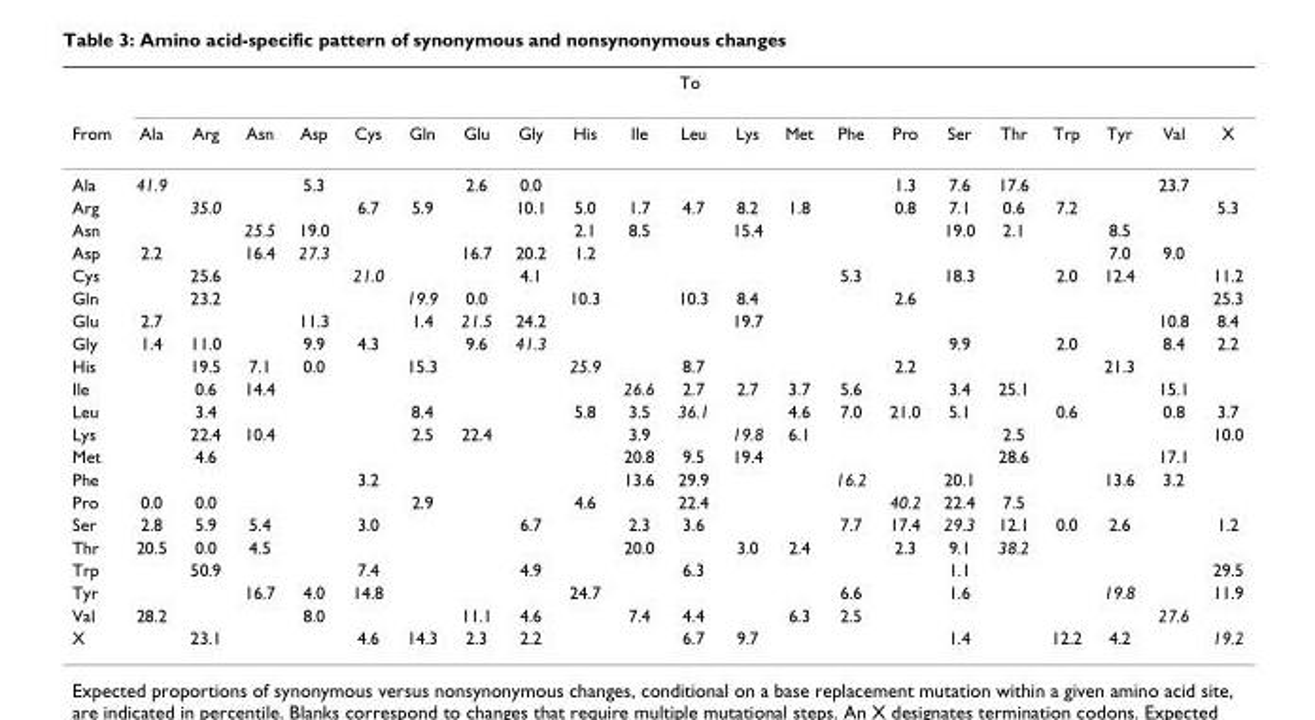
<table><thead><tr><td rowspan="2">From</td><td colspan="21">To</td></tr><tr><td>Ala</td><td>Arg</td><td>Asn</td><td>Asp</td><td>Cys</td><td>Gln</td><td>Glu</td><td>Gly</td><td>His</td><td>Ile</td><td>Leu</td><td>Lys</td><td>Met</td><td>Phe</td><td>Pro</td><td>Ser</td><td>Thr</td><td>Trp</td><td>Tyr</td><td>Val</td><td>X</td></tr></thead><tbody><tr><td>Ala</td><td>41.9</td><td></td><td></td><td>5.3</td><td></td><td></td><td>2.6</td><td>0.0</td><td></td><td></td><td></td><td></td><td></td><td></td><td>1.3</td><td>7.6</td><td>17.6</td><td></td><td></td><td>23.7</td><td></td></tr><tr><td>Arg</td><td></td><td>35.0</td><td></td><td></td><td>6.7</td><td>5.9</td><td></td><td>10.1</td><td>5.0</td><td>1.7</td><td>4.7</td><td>8.2</td><td>1.8</td><td></td><td>0.8</td><td>7.1</td><td>0.6</td><td>7.2</td><td></td><td></td><td>5.3</td></tr><tr><td>Asn</td><td></td><td></td><td>25.5</td><td>19.0</td><td></td><td></td><td></td><td></td><td>2.1</td><td>8.5</td><td></td><td>15.4</td><td></td><td></td><td></td><td>19.0</td><td>2.1</td><td></td><td>8.5</td><td></td><td></td></tr><tr><td>Asp</td><td>2.2</td><td></td><td>16.4</td><td>27.3</td><td></td><td></td><td>16.7</td><td>20.2</td><td>1.2</td><td></td><td></td><td></td><td></td><td></td><td></td><td></td><td></td><td></td><td>7.0</td><td>9.0</td><td></td></tr><tr><td>Cys</td><td></td><td>25.6</td><td></td><td></td><td>21.0</td><td></td><td></td><td>4.1</td><td></td><td></td><td></td><td></td><td></td><td>5.3</td><td></td><td>18.3</td><td></td><td>2.0</td><td>12.4</td><td></td><td>11.2</td></tr><tr><td>Gln</td><td></td><td>23.2</td><td></td><td></td><td></td><td>19.9</td><td>0.0</td><td></td><td>10.3</td><td></td><td>10.3</td><td>8.4</td><td></td><td></td><td>2.6</td><td></td><td></td><td></td><td></td><td></td><td>25.3</td></tr><tr><td>Glu</td><td>2.7</td><td></td><td></td><td>11.3</td><td></td><td>1.4</td><td>21.5</td><td>24.2</td><td></td><td></td><td></td><td>19.7</td><td></td><td></td><td></td><td></td><td></td><td></td><td></td><td>10.8</td><td>8.4</td></tr><tr><td>Gly</td><td>1.4</td><td>11.0</td><td></td><td>9.9</td><td>4.3</td><td></td><td>9.6</td><td>41.3</td><td></td><td></td><td></td><td></td><td></td><td></td><td></td><td>9.9</td><td></td><td>2.0</td><td></td><td>8.4</td><td>2.2</td></tr><tr><td>His</td><td></td><td>19.5</td><td>7.1</td><td>0.0</td><td></td><td>15.3</td><td></td><td></td><td>25.9</td><td></td><td>8.7</td><td></td><td></td><td></td><td>2.2</td><td></td><td></td><td></td><td>21.3</td><td></td><td></td></tr><tr><td>Ile</td><td></td><td>0.6</td><td>14.4</td><td></td><td></td><td></td><td></td><td></td><td></td><td>26.6</td><td>2.7</td><td>2.7</td><td>3.7</td><td>5.6</td><td></td><td>3.4</td><td>25.1</td><td></td><td></td><td>15.1</td><td></td></tr><tr><td>Leu</td><td></td><td>3.4</td><td></td><td></td><td></td><td>8.4</td><td></td><td></td><td>5.8</td><td>3.5</td><td>36.1</td><td></td><td>4.6</td><td>7.0</td><td>21.0</td><td>5.1</td><td></td><td>0.6</td><td></td><td>0.8</td><td>3.7</td></tr><tr><td>Lys</td><td></td><td>22.4</td><td>10.4</td><td></td><td></td><td>2.5</td><td>22.4</td><td></td><td></td><td>3.9</td><td></td><td>19.8</td><td>6.1</td><td></td><td></td><td></td><td>2.5</td><td></td><td></td><td></td><td>10.0</td></tr><tr><td>Met</td><td></td><td>4.6</td><td></td><td></td><td></td><td></td><td></td><td></td><td></td><td>20.8</td><td>9.5</td><td>19.4</td><td></td><td></td><td></td><td></td><td>28.6</td><td></td><td></td><td>17.1</td><td></td></tr><tr><td>Phe</td><td></td><td></td><td></td><td></td><td>3.2</td><td></td><td></td><td></td><td></td><td>13.6</td><td>29.9</td><td></td><td></td><td>16.2</td><td></td><td>20.1</td><td></td><td></td><td>13.6</td><td>3.2</td><td></td></tr><tr><td>Pro</td><td>0.0</td><td>0.0</td><td></td><td></td><td></td><td>2.9</td><td></td><td></td><td>4.6</td><td></td><td>22.4</td><td></td><td></td><td></td><td>40.2</td><td>22.4</td><td>7.5</td><td></td><td></td><td></td><td></td></tr><tr><td>Ser</td><td>2.8</td><td>5.9</td><td>5.4</td><td></td><td>3.0</td><td></td><td></td><td>6.7</td><td></td><td>2.3</td><td>3.6</td><td></td><td></td><td>7.7</td><td>17.4</td><td>29.3</td><td>12.1</td><td>0.0</td><td>2.6</td><td></td><td>1.2</td></tr><tr><td>Thr</td><td>20.5</td><td>0.0</td><td>4.5</td><td></td><td></td><td></td><td></td><td></td><td></td><td>20.0</td><td></td><td>3.0</td><td>2.4</td><td></td><td>2.3</td><td>9.1</td><td>38.2</td><td></td><td></td><td></td><td></td></tr><tr><td>Trp</td><td></td><td>50.9</td><td></td><td></td><td>7.4</td><td></td><td></td><td>4.9</td><td></td><td></td><td>6.3</td><td></td><td></td><td></td><td></td><td>1.1</td><td></td><td></td><td></td><td></td><td>29.5</td></tr><tr><td>Tyr</td><td></td><td></td><td>16.7</td><td>4.0</td><td>14.8</td><td></td><td></td><td></td><td>24.7</td><td></td><td></td><td></td><td></td><td>6.6</td><td></td><td>1.6</td><td></td><td></td><td>19.8</td><td></td><td>11.9</td></tr><tr><td>Val</td><td>28.2</td><td></td><td></td><td>8.0</td><td></td><td></td><td>11.1</td><td>4.6</td><td></td><td>7.4</td><td>4.4</td><td></td><td>6.3</td><td>2.5</td><td></td><td></td><td></td><td></td><td></td><td>27.6</td><td></td></tr><tr><td>X</td><td></td><td>23.1</td><td></td><td></td><td>4.6</td><td>14.3</td><td>2.3</td><td>2.2</td><td></td><td></td><td>6.7</td><td>9.7</td><td></td><td></td><td></td><td>1.4</td><td></td><td>12.2</td><td>4.2</td><td></td><td>19.2</td></tr></tbody></table>